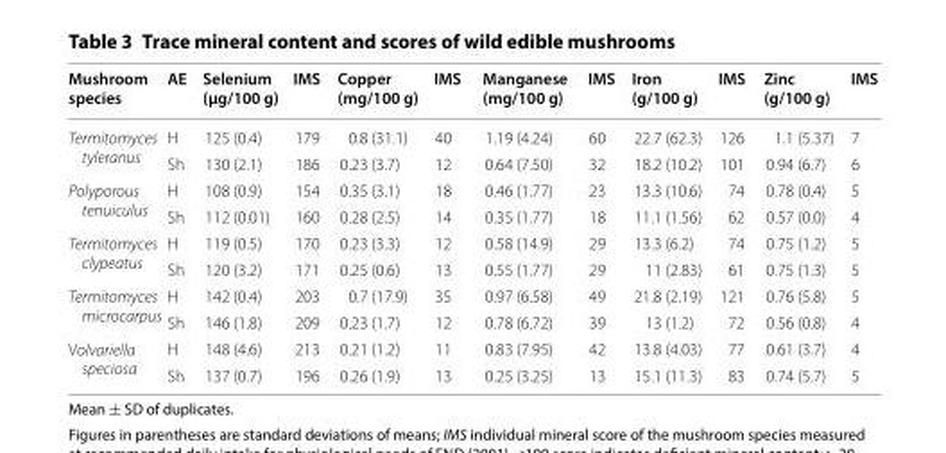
<table><thead><tr><td>Mushroom species</td><td>AE</td><td>Selenium (µg/100 g)</td><td>IMS</td><td>Copper (mg/100 g)</td><td>IMS</td><td>Manganese (mg/100 g)</td><td>IMS</td><td>Iron (g/100 g)</td><td>IMS</td><td>Zinc (g/100 g)</td><td>IMS</td></tr></thead><tbody><tr><td rowspan="2">Termitomyces tyleranus</td><td>H</td><td>125 (0.4)</td><td>179</td><td>0.8 (31.1)</td><td>40</td><td>1.19 (4.24)</td><td>60</td><td>22.7 (62.3)</td><td>126</td><td>1.1 (5.37)</td><td>7</td></tr><tr><td>Sh</td><td>130 (2.1)</td><td>186</td><td>0.23 (3.7)</td><td>12</td><td>0.64 (7.50)</td><td>32</td><td>18.2 (10.2)</td><td>101</td><td>0.94 (6.7)</td><td>6</td></tr><tr><td rowspan="2">Polyporous tenuiculus</td><td>H</td><td>108 (0.9)</td><td>154</td><td>0.35 (3.1)</td><td>18</td><td>0.46 (1.77)</td><td>23</td><td>13.3 (10.6)</td><td>74</td><td>0.78 (0.4)</td><td>5</td></tr><tr><td>Sh</td><td>112 (0.01)</td><td>160</td><td>0.28 (2.5)</td><td>14</td><td>0.35 (1.77)</td><td>18</td><td>11.1 (1.56)</td><td>62</td><td>0.57 (0.0)</td><td>4</td></tr><tr><td rowspan="2">Termitomyces clypeatus</td><td>H</td><td>119 (0.5)</td><td>170</td><td>0.23 (3.3)</td><td>12</td><td>0.58 (14.9)</td><td>29</td><td>13.3 (6.2)</td><td>74</td><td>0.75 (1.2)</td><td>5</td></tr><tr><td>Sh</td><td>120 (3.2)</td><td>171</td><td>0.25 (0.6)</td><td>13</td><td>0.55 (1.77)</td><td>29</td><td>11 (2.83)</td><td>61</td><td>0.75 (1.3)</td><td>5</td></tr><tr><td rowspan="2">Termitomyces microcarpus</td><td>H</td><td>142 (0.4)</td><td>203</td><td>0.7 (17.9)</td><td>35</td><td>0.97 (6.58)</td><td>49</td><td>21.8 (2.19)</td><td>121</td><td>0.76 (5.8)</td><td>5</td></tr><tr><td>Sh</td><td>146 (1.8)</td><td>209</td><td>0.23 (1.7)</td><td>12</td><td>0.78 (6.72)</td><td>39</td><td>13 (1.2)</td><td>72</td><td>0.56 (0.8)</td><td>4</td></tr><tr><td rowspan="2">Volvariella speciosa</td><td>H</td><td>148 (4.6)</td><td>213</td><td>0.21 (1.2)</td><td>11</td><td>0.83 (7.95)</td><td>42</td><td>13.8 (4.03)</td><td>77</td><td>0.61 (3.7)</td><td>4</td></tr><tr><td>Sh</td><td>137 (0.7)</td><td>196</td><td>0.26 (1.9)</td><td>13</td><td>0.25 (3.25)</td><td>13</td><td>15.1 (11.3)</td><td>83</td><td>0.74 (5.7)</td><td>5</td></tr></tbody></table>